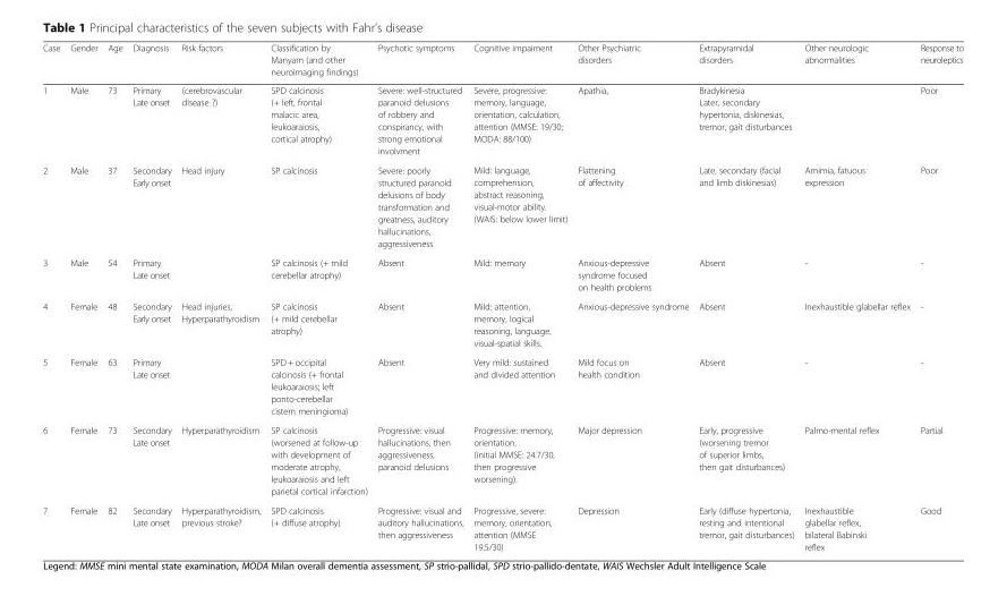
<table><thead><tr><td>Case</td><td>Gender</td><td>Age</td><td>Diagnosis</td><td>Risk factors</td><td>Classification by Manyam (and other neuroimaging findings)</td><td>Psychotic symptoms</td><td>Cognitive impaiment</td><td>Other Psychiatric disorders</td><td>Extrapyramidal disorders</td><td>Other neurologic abnormalities</td><td>Response to neuroleptics</td></tr></thead><tbody><tr><td>1</td><td>Male</td><td>73</td><td>Primary Late onset</td><td>(cerebrovascular disease ?)</td><td>SPD calcinosis (+ left, frontal malacic area, leukoaraiosis, cortical atrophy)</td><td>Severe: well-structured paranoid delusions of robbery and conspirancy, with strong emotional involvment</td><td>Severe, progressive: memory, language, orientation, calculation, attention (MMSE: 19/30; MODA: 88/100)</td><td>Apathia,</td><td>Bradykinesia Later, secondary hypertonia, diskinesias, tremor, gait disturbances</td><td></td><td>Poor</td></tr><tr><td>2</td><td>Male</td><td>37</td><td>Secondary Early onset</td><td>Head injury</td><td>SP calcinosis</td><td>Severe: poorly structured paranoid delusions of body transformation and greatness, auditory hallucinations, aggressiveness</td><td>Mild: language, comprehension, abstract reasoning, visual-motor ability. (WAIS: below lower limit)</td><td>Flattening of affectivity</td><td>Late, secondary (facial and limb diskinesias)</td><td>Amimia, fatuous expression</td><td>Poor</td></tr><tr><td>3</td><td>Male</td><td>54</td><td>Primary Late onset</td><td></td><td>SP calcinosis (+ mild cerebellar atrophy)</td><td>Absent</td><td>Mild: memory</td><td>Anxious-depressive syndrome focused on health problems</td><td>Absent</td><td>-</td><td>-</td></tr><tr><td>4</td><td>Female</td><td>48</td><td>Secondary Early onset</td><td>Head injuries, Hyperparathyroidism</td><td>SP calcinosis (+ mild cerebellar atrophy)</td><td>Absent</td><td>Mild: attention, memory, logical reasoning, language, visual-spatial skills.</td><td>Anxious-depressive syndrome</td><td>Absent</td><td>Inexhaustible glabellar reflex</td><td>-</td></tr><tr><td>5</td><td>Female</td><td>63</td><td>Primary Late onset</td><td></td><td>SPD + occipital calcinosis (+ frontal leukoaraiosis; left ponto-cerebellar cistern meningioma)</td><td>Absent</td><td>Very mild: sustained and divided attention</td><td>Mild focus on health condition</td><td>Absent</td><td>-</td><td>-</td></tr><tr><td>6</td><td>Female</td><td>73</td><td>Secondary Late onset</td><td>Hyperparathyroidism</td><td>SP calcinosis (worsened at follow-up with development of moderate atrophy, leukoaraiosis and left parietal cortical infarction)</td><td>Progressive: visual hallucinations, then aggressiveness, paranoid delusions</td><td>Progressive: memory, orientation. (initial MMSE: 24.7/30, then progressive worsening).</td><td>Major depression</td><td>Early, progressive (worsening tremor of superior limbs, then gait disturbances)</td><td>Palmo-mental reflex</td><td>Partial</td></tr><tr><td>7</td><td>Female</td><td>82</td><td>Secondary Late onset</td><td>Hyperparathyroidism, previous stroke?</td><td>SPD calcinosis (+ diffuse atrophy)</td><td>Progressive: visual and auditory hallucinations, then aggressiveness</td><td>Progressive, severe: memory, orientation, attention (MMSE 19.5/30)</td><td>Depression</td><td>Early (diffuse hypertonia, resting and intentional tremor, gait disturbances)</td><td>Inexhaustible glabellar reflex, bilateral Babinski reflex</td><td>Good</td></tr></tbody></table>